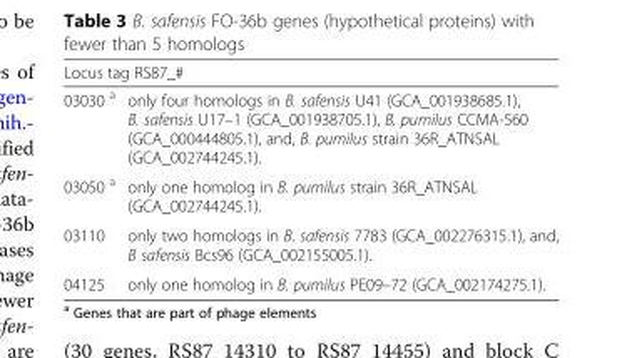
<table><thead><tr><td colspan="2">Locus tag RS87_#</td></tr><tr><td>03030 <sup>a</sup></td><td>only four homologs in B. safensis U41 (GCA_001938685.1), B. safensis U17–1 (GCA_001938705.1), B. pumilus CCMA-560 (GCA_000444805.1), and, B. pumilus strain 36R_ATNSAL (GCA_002744245.1).</td></tr></thead><tbody><tr><td>03050 <sup>a</sup></td><td>only one homolog in B. pumilus strain 36R_ATNSAL (GCA_002744245.1).</td></tr><tr><td>03110</td><td>only two homologs in B. safensis 7783 (GCA_002276315.1), and, B safensis Bcs96 (GCA_002155005.1).</td></tr><tr><td>04125</td><td>only one homolog in B. pumilus PE09–72 (GCA_002174275.1).</td></tr></tbody></table>